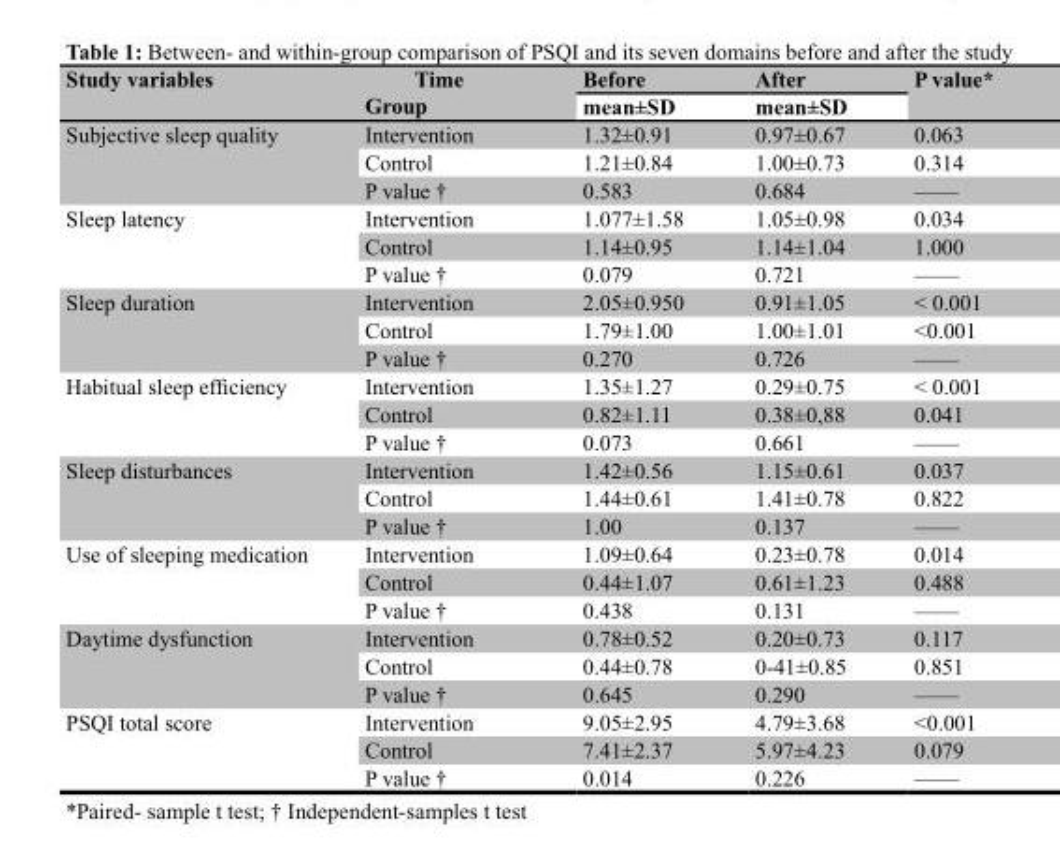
<table><thead><tr><td rowspan="2">Study variables</td><td rowspan="2">Time Group</td><td rowspan="2">Before mean±SD</td><td rowspan="2">After mean±SD</td><td rowspan="2">P value*</td></tr><tr></tr></thead><tbody><tr><td rowspan="3">Subjective sleep quality</td><td>Intervention</td><td>1.32±0.91</td><td>0.97±0.67</td><td>0.063</td></tr><tr><td>Control</td><td>1.21±0.84</td><td>1.00±0.73</td><td>0.314</td></tr><tr><td>P value †</td><td>0.583</td><td>0.684</td><td>——</td></tr><tr><td rowspan="3">Sleep latency</td><td>Intervention</td><td>1.077±1.58</td><td>1.05±0.98</td><td>0.034</td></tr><tr><td>Control</td><td>1.14±0.95</td><td>1.14±1.04</td><td>1.000</td></tr><tr><td>P value †</td><td>0.079</td><td>0.721</td><td>——</td></tr><tr><td rowspan="3">Sleep duration</td><td>Intervention</td><td>2.05±0.950</td><td>0.91±1.05</td><td>&lt; 0.001</td></tr><tr><td>Control</td><td>1.79±1.00</td><td>1.00±1.01</td><td>&lt;0.001</td></tr><tr><td>P value †</td><td>0.270</td><td>0.726</td><td>——</td></tr><tr><td rowspan="3">Habitual sleep efficiency</td><td>Intervention</td><td>1.35±1.27</td><td>0.29±0.75</td><td>&lt; 0.001</td></tr><tr><td>Control</td><td>0.82±1.11</td><td>0.38±0,88</td><td>0.041</td></tr><tr><td>P value †</td><td>0.073</td><td>0.661</td><td>——</td></tr><tr><td rowspan="3">Sleep disturbances</td><td>Intervention</td><td>1.42±0.56</td><td>1.15±0.61</td><td>0.037</td></tr><tr><td>Control</td><td>1.44±0.61</td><td>1.41±0.78</td><td>0.822</td></tr><tr><td>P value †</td><td>1.00</td><td>0.137</td><td>——</td></tr><tr><td rowspan="3">Use of sleeping medication</td><td>Intervention</td><td>1.09±0.64</td><td>0.23±0.78</td><td>0.014</td></tr><tr><td>Control</td><td>0.44±1.07</td><td>0.61±1.23</td><td>0.488</td></tr><tr><td>P value †</td><td>0.438</td><td>0.131</td><td>——</td></tr><tr><td rowspan="3">Daytime dysfunction</td><td>Intervention</td><td>0.78±0.52</td><td>0.20±0.73</td><td>0.117</td></tr><tr><td>Control</td><td>0.44±0.78</td><td>0-41±0.85</td><td>0.851</td></tr><tr><td>P value †</td><td>0.645</td><td>0.290</td><td>——</td></tr><tr><td rowspan="3">PSQI total score</td><td>Intervention</td><td>9.05±2.95</td><td>4.79±3.68</td><td>&lt;0.001</td></tr><tr><td>Control</td><td>7.41±2.37</td><td>5.97±4.23</td><td>0.079</td></tr><tr><td>P value †</td><td>0.014</td><td>0.226</td><td>——</td></tr></tbody></table>